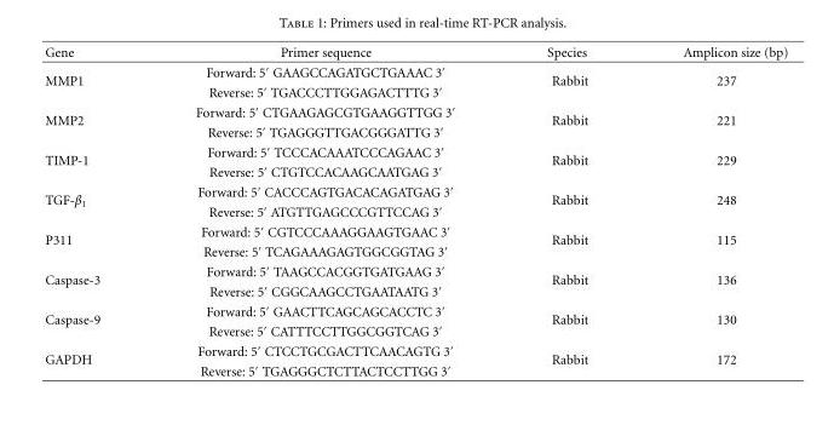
<table><thead><tr><td>Gene</td><td>Primer sequence</td><td>Species</td><td>Amplicon size (bp)</td></tr></thead><tbody><tr><td rowspan="2">MMP1</td><td>Forward: 5′ GAAGCCAGATGCTGAAAC 3′</td><td rowspan="2">Rabbit</td><td rowspan="2">237</td></tr><tr><td>Reverse: 5′ TGACCCTTGGAGACTTTG 3′</td></tr><tr><td rowspan="2">MMP2</td><td>Forward: 5′ CTGAAGAGCGTGAAGGTTGG 3′</td><td rowspan="2">Rabbit</td><td rowspan="2">221</td></tr><tr><td>Reverse: 5′ TGAGGGTTGACGGGATTG 3′</td></tr><tr><td rowspan="2">TIMP-1</td><td>Forward: 5′ TCCCACAAATCCCAGAAC 3′</td><td rowspan="2">Rabbit</td><td rowspan="2">229</td></tr><tr><td>Reverse: 5′ CTGTCCACAAGCAATGAG 3′</td></tr><tr><td rowspan="2">TGF-β<sub>1</sub></td><td>Forward: 5′ CACCCAGTGACACAGATGAG 3′</td><td rowspan="2">Rabbit</td><td rowspan="2">248</td></tr><tr><td>Reverse: 5′ ATGTTGAGCCCGTTCCAG 3′</td></tr><tr><td rowspan="2">P311</td><td>Forward: 5′ CGTCCCAAAGGAAGTGAAC 3′</td><td rowspan="2">Rabbit</td><td rowspan="2">115</td></tr><tr><td>Reverse: 5′ TCAGAAAGAGTGGCGGTAG 3′</td></tr><tr><td rowspan="2">Caspase-3</td><td>Forward: 5′ TAAGCCACGGTGATGAAG 3′</td><td rowspan="2">Rabbit</td><td rowspan="2">136</td></tr><tr><td>Reverse: 5′ CGGCAAGCCTGAATAATG 3′</td></tr><tr><td rowspan="2">Caspase-9</td><td>Forward: 5′ GAACTTCAGCAGCACCTC 3′</td><td rowspan="2">Rabbit</td><td rowspan="2">130</td></tr><tr><td>Reverse: 5′ CATTTCCTTGGCGGTCAG 3′</td></tr><tr><td rowspan="2">GAPDH</td><td>Forward: 5′ CTCCTGCGACTTCAACAGTG 3′</td><td rowspan="2">Rabbit</td><td rowspan="2">172</td></tr><tr><td>Reverse: 5′ TGAGGGCTCTTACTCCTTGG 3′</td></tr></tbody></table>